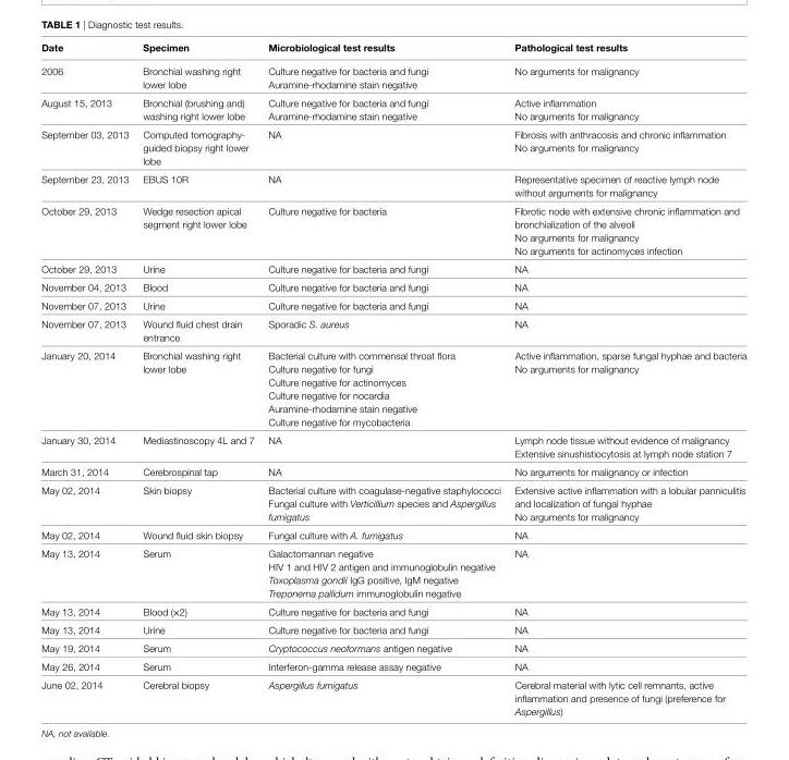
<table><thead><tr><td>Date</td><td>specimen</td><td>Microbiological test results</td><td>pathological test results</td></tr></thead><tbody><tr><td>2006</td><td>Bronchial washing right lower lobe</td><td>Culture negative for bacteria and fungi Auramine-rhodamine stain negative</td><td>No arguments for malignancy</td></tr><tr><td>August 15, 2013</td><td>Bronchial (brushing and) washing right lower lobe</td><td>Culture negative for bacteria and fungi Auramine-rhodamine stain negative</td><td>Active inflammation No arguments for malignancy</td></tr><tr><td>September 03, 2013</td><td>Computed tomography- guided biopsy right lower lobe</td><td>NA</td><td>Fibrosis with anthracosis and chronic inflammation No arguments for malignancy</td></tr><tr><td>September 23, 2013</td><td>EBUS 10R</td><td>NA</td><td>Representative specimen of reactive lymph node without arguments for malignancy</td></tr><tr><td>October 29, 2013</td><td>Wedge resection apical segment right lower lobe</td><td>Culture negative for bacteria</td><td>Fibrotic node with extensive chronic inflammation and bronchialization of the alveoli No arguments for malignancy No arguments for actinomyces infection</td></tr><tr><td>October 29, 2013</td><td>Urine</td><td>Culture negative for bacteria and fungi</td><td>NA</td></tr><tr><td>November 04, 2013</td><td>Blood</td><td>Culture negative for bacteria and fungi</td><td>NA</td></tr><tr><td>November 07, 2013</td><td>Urine</td><td>Culture negative for bacteria and fungi</td><td>NA</td></tr><tr><td>November 07, 2013</td><td>Wound fluid chest drain entrance</td><td>Sporadic S. aureus</td><td>NA</td></tr><tr><td>January 20, 2014</td><td>Bronchial washing right lower lobe</td><td>Bacterial culture with commensal throat flora Culture negative for fungi Culture negative for actinomyces Culture negative for nocardia Auramine-rhodamine stain negative Culture negative for mycobacteria</td><td>Active inflammation, sparse fungal hyphae and bacteria No arguments for malignancy</td></tr><tr><td>January 30, 2014</td><td>Mediastinoscopy 4L and 7</td><td>NA</td><td>Lymph node tissue without evidence of malignancy Extensive sinushistiocytosis at lymph node station 7</td></tr><tr><td>March 31, 2014</td><td>Cerebrospinal tap</td><td>NA</td><td>No arguments for malignancy or infection</td></tr><tr><td>May 02, 2014</td><td>Skin biopsy</td><td>Bacterial culture with coagulase-negative staphylococci Fungal culture with Verticillium species and Aspergillus fumigatus</td><td>Extensive active inflammation with a lobular panniculitis and localization of fungal hyphae No arguments for malignancy</td></tr><tr><td>May 02, 2014</td><td>Wound fluid skin biopsy</td><td>Fungal culture with A. fumigatus</td><td>NA</td></tr><tr><td>May 13, 2014</td><td>Serum</td><td>Galactomannan negative HIV 1 and HIV 2 antigen and immunoglobulin negative Toxoplasma gondii IgG positive, IgM negative Treponema pallidum immunoglobulin negative</td><td>NA</td></tr><tr><td>May 13, 2014</td><td>Blood (×2)</td><td>Culture negative for bacteria and fungi</td><td>NA</td></tr><tr><td>May 13, 2014</td><td>Urine</td><td>Culture negative for bacteria and fungi</td><td>NA</td></tr><tr><td>May 19, 2014</td><td>Serum</td><td>Cryptococcus neoformans antigen negative</td><td>NA</td></tr><tr><td>May 26, 2014</td><td>Serum</td><td>Interferon-gamma release assay negative</td><td>NA</td></tr><tr><td>June 02, 2014</td><td>Cerebral biopsy</td><td>Aspergillus fumigatus</td><td>Cerebral material with lytic cell remnants, active inflammation and presence of fungi (preference for Aspergillus)</td></tr></tbody></table>